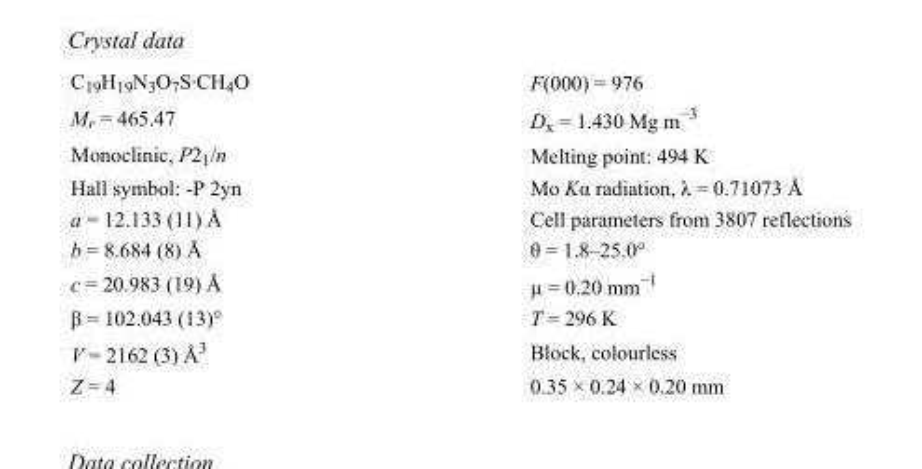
<table><tbody><tr><td>C<sub>19</sub>H<sub>19</sub>N<sub>3</sub>O<sub>7</sub>S·CH<sub>4</sub>O</td><td>F(000) = 976</td></tr><tr><td>M<sub>r</sub> = 465.47</td><td>D<sub>x</sub> = 1.430 Mg m<sup>−3</sup></td></tr><tr><td>Monoclinic, P2<sub>1</sub>/n</td><td>Melting point: 494 K</td></tr><tr><td>Hall symbol: -P 2yn</td><td>Mo Kα radiation, λ = 0.71073 Å</td></tr><tr><td>a = 12.133 (11) Å</td><td>Cell parameters from 3807 reflections</td></tr><tr><td>b = 8.684 (8) Å</td><td>θ = 1.8–25.0°</td></tr><tr><td>c = 20.983 (19) Å</td><td>µ = 0.20 mm<sup>−1</sup></td></tr><tr><td>β = 102.043 (13)°</td><td>T = 296 K</td></tr><tr><td>V = 2162 (3) Å<sup>3</sup></td><td>Block, colourless</td></tr><tr><td>Z = 4</td><td>0.35 × 0.24 × 0.20 mm</td></tr></tbody></table>